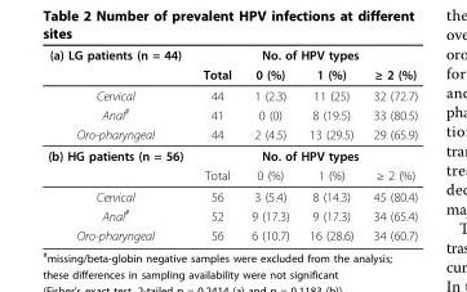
<table><thead><tr><td rowspan="2">(a) LG patients (n = 44)</td><td colspan="4">No. of HPV types</td></tr><tr><td>Total</td><td>0 (%)</td><td>1 (%)</td><td>≥ 2 (%)</td></tr></thead><tbody><tr><td>Cervical</td><td>44</td><td>1 (2.3)</td><td>11 (25)</td><td>32 (72.7)</td></tr><tr><td>Anal<sup>#</sup></td><td>41</td><td>0 (0)</td><td>8 (19.5)</td><td>33 (80.5)</td></tr><tr><td>Oro-pharyngeal</td><td>44</td><td>2 (4.5)</td><td>13 (29.5)</td><td>29 (65.9)</td></tr><tr><td rowspan="2">(b) HG patients (n = 56)</td><td colspan="4">No. of HPV types</td></tr><tr><td>Total</td><td>0 (%)</td><td>1 (%)</td><td>≥ 2 (%)</td></tr><tr><td>Cervical</td><td>56</td><td>3 (5.4)</td><td>8 (14.3)</td><td>45 (80.4)</td></tr><tr><td>Anal<sup>#</sup></td><td>52</td><td>9 (17.3)</td><td>9 (17.3)</td><td>34 (65.4)</td></tr><tr><td>Oro-pharyngeal</td><td>56</td><td>6 (10.7)</td><td>16 (28.6)</td><td>34 (60.7)</td></tr></tbody></table>